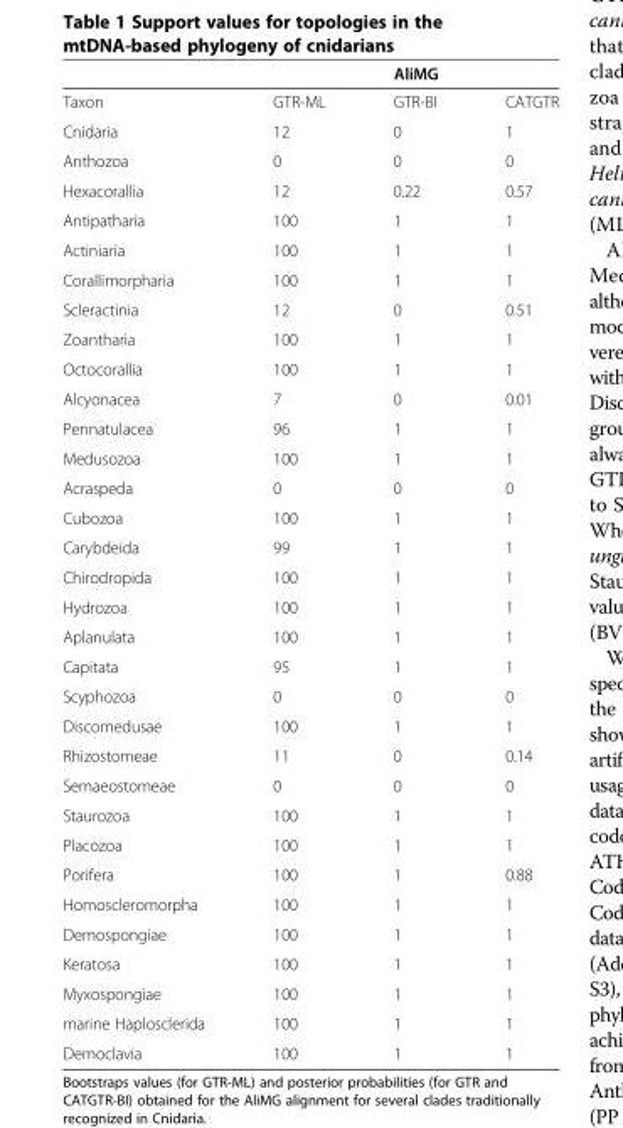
<table><thead><tr><td></td><td></td><td>AliMG</td><td></td></tr></thead><tbody><tr><td>Taxon</td><td>GTR-ML</td><td>GTR-BI</td><td>CATGTR</td></tr><tr><td>Cnidaria</td><td>12</td><td>0</td><td>1</td></tr><tr><td>Anthozoa</td><td>0</td><td>0</td><td>0</td></tr><tr><td>Hexacorallia</td><td>12</td><td>0.22</td><td>0.57</td></tr><tr><td>Antipatharia</td><td>100</td><td>1</td><td>1</td></tr><tr><td>Actiniaria</td><td>100</td><td>1</td><td>1</td></tr><tr><td>Corallimorpharia</td><td>100</td><td>1</td><td>1</td></tr><tr><td>Scleractinia</td><td>12</td><td>0</td><td>0.51</td></tr><tr><td>Zoantharia</td><td>100</td><td>1</td><td>1</td></tr><tr><td>Octocorallia</td><td>100</td><td>1</td><td>1</td></tr><tr><td>Alcyonacea</td><td>7</td><td>0</td><td>0.01</td></tr><tr><td>Pennatulacea</td><td>96</td><td>1</td><td>1</td></tr><tr><td>Medusozoa</td><td>100</td><td>1</td><td>1</td></tr><tr><td>Acraspeda</td><td>0</td><td>0</td><td>0</td></tr><tr><td>Cubozoa</td><td>100</td><td>1</td><td>1</td></tr><tr><td>Carybdeida</td><td>99</td><td>1</td><td>1</td></tr><tr><td>Chirodropida</td><td>100</td><td>1</td><td>1</td></tr><tr><td>Hydrozoa</td><td>100</td><td>1</td><td>1</td></tr><tr><td>Aplanulata</td><td>100</td><td>1</td><td>1</td></tr><tr><td>Capitata</td><td>95</td><td>1</td><td>1</td></tr><tr><td>Scyphozoa</td><td>0</td><td>0</td><td>0</td></tr><tr><td>Discomedusae</td><td>100</td><td>1</td><td>1</td></tr><tr><td>Rhizostomeae</td><td>11</td><td>0</td><td>0.14</td></tr><tr><td>Semaeostomeae</td><td>0</td><td>0</td><td>0</td></tr><tr><td>Staurozoa</td><td>100</td><td>1</td><td>1</td></tr><tr><td>Placozoa</td><td>100</td><td>1</td><td>1</td></tr><tr><td>Porifera</td><td>100</td><td>1</td><td>0.88</td></tr><tr><td>Homoscleromorpha</td><td>100</td><td>1</td><td>1</td></tr><tr><td>Demospongiae</td><td>100</td><td>1</td><td>1</td></tr><tr><td>Keratosa</td><td>100</td><td>1</td><td>1</td></tr><tr><td>Myxospongiae</td><td>100</td><td>1</td><td>1</td></tr><tr><td>marine Haplosclerida</td><td>100</td><td>1</td><td>1</td></tr><tr><td>Democlavia</td><td>100</td><td>1</td><td>1</td></tr></tbody></table>